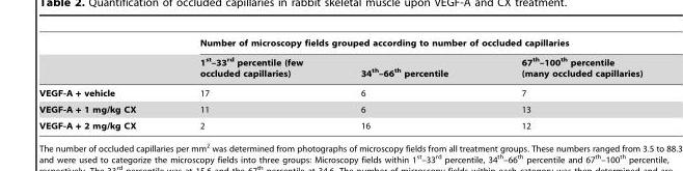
<table><thead><tr><td rowspan="2"></td><td colspan="3">Number of microscopy fields grouped according to number of occluded capillaries</td></tr><tr><td>1<sup>st</sup>–33<sup>rd</sup> percentile (few occluded capillaries)</td><td>34<sup>th</sup>–66<sup>th</sup> percentile</td><td>67<sup>th</sup>–100<sup>th</sup> percentile (many occluded capillaries)</td></tr></thead><tbody><tr><td>VEGF-A + vehicle</td><td>17</td><td>6</td><td>7</td></tr><tr><td>VEGF-A + 1 mg/kg CX</td><td>11</td><td>6</td><td>13</td></tr><tr><td>VEGF-A + 2 mg/kg CX</td><td>2</td><td>16</td><td>12</td></tr></tbody></table>